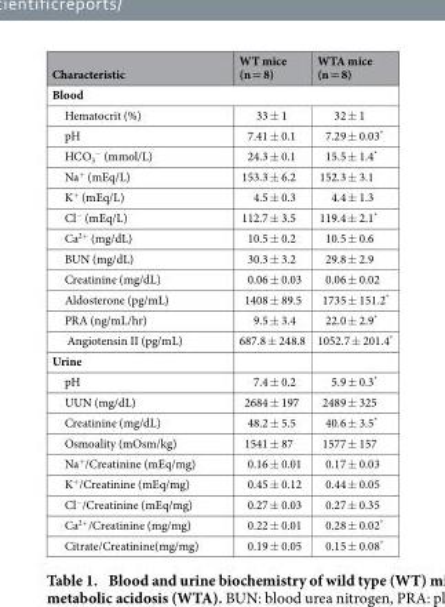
<table><thead><tr><td>Characteristic</td><td>WT mice (n = 8)</td><td>WTA mice (n = 8)</td></tr></thead><tbody><tr><td colspan="3">Blood</td></tr><tr><td>Hematocrit (%)</td><td>33 ± 1</td><td>32 ± 1</td></tr><tr><td>pH</td><td>7.41 ± 0.1</td><td>7.29 ± 0.03*</td></tr><tr><td>HCO<sub>3</sub> <sup>−</sup> (mmol/L)</td><td>24.3 ± 0.1</td><td>15.5 ± 1.4*</td></tr><tr><td>Na<sup>+</sup> (mEq/L)</td><td>153.3 ± 6.2</td><td>152.3 ± 3.1</td></tr><tr><td>K<sup>+</sup> (mEq/L)</td><td>4.5 ± 0.3</td><td>4.4 ± 1.3</td></tr><tr><td>Cl<sup>−</sup> (mEq/L)</td><td>112.7 ± 3.5</td><td>119.4 ± 2.1*</td></tr><tr><td>Ca<sup>2+</sup> (mg/dL)</td><td>10.5 ± 0.2</td><td>10.5 ± 0.6</td></tr><tr><td>BUN (mg/dL)</td><td>30.3 ± 3.2</td><td>29.8 ± 2.9</td></tr><tr><td>Creatinine (mg/dL)</td><td>0.06 ± 0.03</td><td>0.06 ± 0.02</td></tr><tr><td>Aldosterone (pg/mL)</td><td>1408 ± 89.5</td><td>1735 ± 151.2*</td></tr><tr><td>PRA (ng/mL/hr)</td><td>9.5 ± 3.4</td><td>22.0 ± 2.9*</td></tr><tr><td>Angiotensin II (pg/mL)</td><td>687.8 ± 248.8</td><td>1052.7 ± 201.4*</td></tr><tr><td colspan="3">Urine</td></tr><tr><td>pH</td><td>7.4 ± 0.2</td><td>5.9 ± 0.3*</td></tr><tr><td>UUN (mg/dL)</td><td>2684 ± 197</td><td>2489 ± 325</td></tr><tr><td>Creatinine (mg/dL)</td><td>48.2 ± 5.5</td><td>40.6 ± 3.5*</td></tr><tr><td>Osmoality (mOsm/kg)</td><td>1541 ± 87</td><td>1577 ± 157</td></tr><tr><td>Na<sup>+</sup>/Creatinine (mEq/mg)</td><td>0.16 ± 0.01</td><td>0.17 ± 0.03</td></tr><tr><td>K<sup>+</sup>/Creatinine (mEq/mg)</td><td>0.45 ± 0.12</td><td>0.44 ± 0.05</td></tr><tr><td>Cl<sup>−</sup>/Creatinine (mEq/mg)</td><td>0.27 ± 0.03</td><td>0.27 ± 0.35</td></tr><tr><td>Ca<sup>2+</sup>/Creatinine (mg/mg)</td><td>0.22 ± 0.01</td><td>0.28 ± 0.02*</td></tr><tr><td>Citrate/Creatinine(mg/mg)</td><td>0.19 ± 0.05</td><td>0.15 ± 0.08*</td></tr></tbody></table>